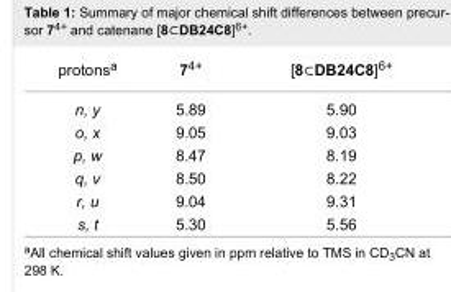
<table><tbody><tr><td>protons<sup>a</sup></td><td>7<sup>4+</sup></td><td>[8 DB24C8]<sup>6+</sup></td></tr><tr><td>n, y</td><td>5.89</td><td>5.90</td></tr><tr><td>o, x</td><td>9.05</td><td>9.03</td></tr><tr><td>p, w</td><td>8.47</td><td>8.19</td></tr><tr><td>q, v</td><td>8.50</td><td>8.22</td></tr><tr><td>r, u</td><td>9.04</td><td>9.31</td></tr><tr><td>s, t</td><td>5.30</td><td>5.56</td></tr></tbody></table>